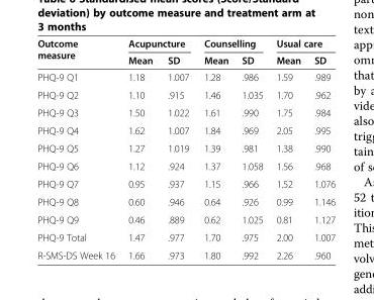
<table><thead><tr><td rowspan="2">Outcome measure</td><td colspan="2">Acupuncture</td><td colspan="2">Counselling</td><td colspan="2">Usual care</td></tr><tr><td>Mean</td><td>SD</td><td>Mean</td><td>SD</td><td>Mean</td><td>SD</td></tr></thead><tbody><tr><td>PHQ-9 Q1</td><td>1.18</td><td>1.007</td><td>1.28</td><td>.986</td><td>1.59</td><td>.989</td></tr><tr><td>PHQ-9 Q2</td><td>1.10</td><td>.915</td><td>1.46</td><td>1.035</td><td>1.70</td><td>.962</td></tr><tr><td>PHQ-9 Q3</td><td>1.50</td><td>1.022</td><td>1.61</td><td>.990</td><td>1.75</td><td>.984</td></tr><tr><td>PHQ-9 Q4</td><td>1.62</td><td>1.007</td><td>1.84</td><td>.969</td><td>2.05</td><td>.995</td></tr><tr><td>PHQ-9 Q5</td><td>1.27</td><td>1.019</td><td>1.39</td><td>.981</td><td>1.38</td><td>.990</td></tr><tr><td>PHQ-9 Q6</td><td>1.12</td><td>.924</td><td>1.37</td><td>1.058</td><td>1.56</td><td>.968</td></tr><tr><td>PHQ-9 Q7</td><td>0.95</td><td>.937</td><td>1.15</td><td>.966</td><td>1.52</td><td>1.076</td></tr><tr><td>PHQ-9 Q8</td><td>0.60</td><td>.946</td><td>0.64</td><td>.926</td><td>0.99</td><td>1.146</td></tr><tr><td>PHQ-9 Q9</td><td>0.46</td><td>.889</td><td>0.62</td><td>1.025</td><td>0.81</td><td>1.127</td></tr><tr><td>PHQ-9 Total</td><td>1.47</td><td>.977</td><td>1.70</td><td>.975</td><td>2.00</td><td>1.007</td></tr><tr><td>R-SMS-DS Week 16</td><td>1.66</td><td>.973</td><td>1.80</td><td>.992</td><td>2.26</td><td>.960</td></tr></tbody></table>